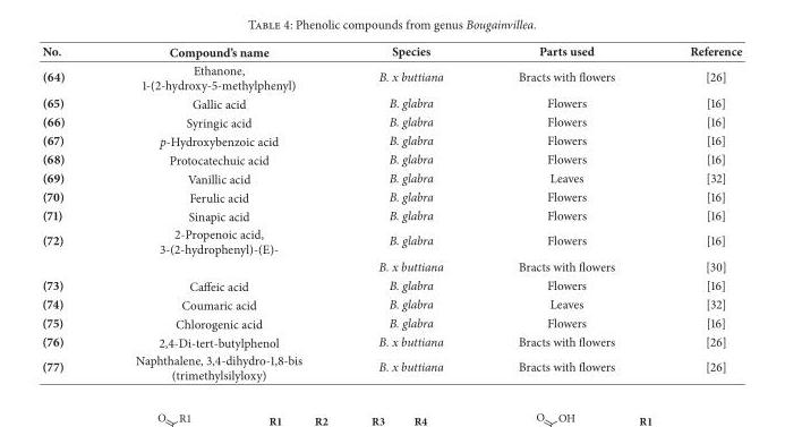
<table><thead><tr><td>No.</td><td>Compound’s name</td><td>Species</td><td>Parts used</td><td>Reference</td></tr></thead><tbody><tr><td>(64)</td><td>Ethanone, 1-(2-hydroxy-5-methylphenyl)</td><td>B. x buttiana</td><td>Bracts with flowers</td><td>[26]</td></tr><tr><td>(65)</td><td>Gallic acid</td><td>B. glabra</td><td>Flowers</td><td>[16]</td></tr><tr><td>(66)</td><td>Syringic acid</td><td>B. glabra</td><td>Flowers</td><td>[16]</td></tr><tr><td>(67)</td><td>p-Hydroxybenzoic acid</td><td>B. glabra</td><td>Flowers</td><td>[16]</td></tr><tr><td>(68)</td><td>Protocatechuic acid</td><td>B. glabra</td><td>Flowers</td><td>[16]</td></tr><tr><td>(69)</td><td>Vanillic acid</td><td>B. glabra</td><td>Leaves</td><td>[32]</td></tr><tr><td>(70)</td><td>Ferulic acid</td><td>B. glabra</td><td>Flowers</td><td>[16]</td></tr><tr><td>(71)</td><td>Sinapic acid</td><td>B. glabra</td><td>Flowers</td><td>[16]</td></tr><tr><td rowspan="2">(72)</td><td>2-Propenoic acid, 3-(2-hydrophenyl)-(E)-</td><td>B. glabra</td><td>Flowers</td><td>[16]</td></tr><tr><td></td><td>B. x buttiana</td><td>Bracts with flowers</td><td>[30]</td></tr><tr><td>(73)</td><td>Caffeic acid</td><td>B. glabra</td><td>Flowers</td><td>[16]</td></tr><tr><td>(74)</td><td>Coumaric acid</td><td>B. glabra</td><td>Leaves</td><td>[32]</td></tr><tr><td>(75)</td><td>Chlorogenic acid</td><td>B. glabra</td><td>Flowers</td><td>[16]</td></tr><tr><td>(76)</td><td>2,4-Di-tert-butylphenol</td><td>B. x buttiana</td><td>Bracts with flowers</td><td>[26]</td></tr><tr><td>(77)</td><td>Naphthalene, 3,4-dihydro-1,8-bis (trimethylsilyloxy)</td><td>B. x buttiana</td><td>Bracts with flowers</td><td>[26]</td></tr></tbody></table>